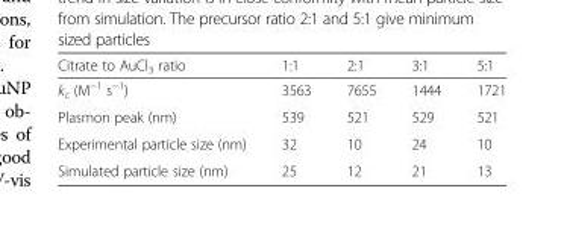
<table><thead><tr><td>Citrate to AuCl<sub>3</sub> ratio</td><td>1:1</td><td>2:1</td><td>3:1</td><td>5:1</td></tr></thead><tbody><tr><td>k<sub>c</sub> (M<sup>−1</sup> s<sup>−1</sup>)</td><td>3563</td><td>7655</td><td>1444</td><td>1721</td></tr><tr><td>Plasmon peak (nm)</td><td>539</td><td>521</td><td>529</td><td>521</td></tr><tr><td>Experimental particle size (nm)</td><td>32</td><td>10</td><td>24</td><td>10</td></tr><tr><td>Simulated particle size (nm)</td><td>25</td><td>12</td><td>21</td><td>13</td></tr></tbody></table>